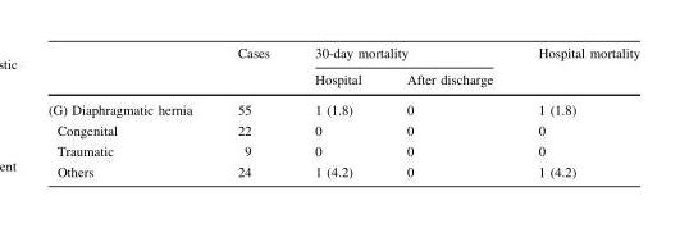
<table><thead><tr><td rowspan="2"></td><td rowspan="2">Cases</td><td colspan="2">30-day mortality</td><td rowspan="2">Hospital mortality</td></tr><tr><td>Hospital</td><td>After discharge</td></tr></thead><tbody><tr><td>(G) Diaphragmatic hernia</td><td>55</td><td>1 (1.8)</td><td>0</td><td>1 (1.8)</td></tr><tr><td>Congenital</td><td>22</td><td>0</td><td>0</td><td>0</td></tr><tr><td>Traumatic</td><td>9</td><td>0</td><td>0</td><td>0</td></tr><tr><td>Others</td><td>24</td><td>1 (4.2)</td><td>0</td><td>1 (4.2)</td></tr></tbody></table>